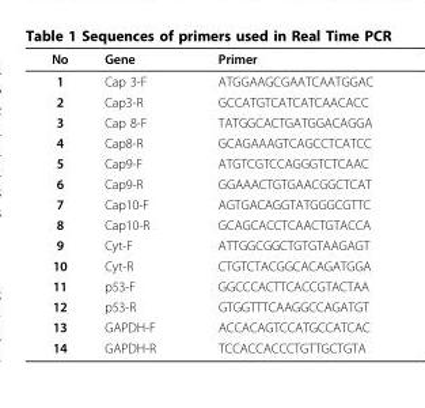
<table><thead><tr><td>No</td><td>Gene</td><td>Primer</td></tr></thead><tbody><tr><td>1</td><td>Cap 3-F</td><td>ATGGAAGCGAATCAATGGAC</td></tr><tr><td>2</td><td>Cap3-R</td><td>GCCATGTCATCATCAACACC</td></tr><tr><td>3</td><td>Cap 8-F</td><td>TATGGCACTGATGGACAGGA</td></tr><tr><td>4</td><td>Cap8-R</td><td>GCAGAAAGTCAGCCTCATCC</td></tr><tr><td>5</td><td>Cap9-F</td><td>ATGTCGTCCAGGGTCTCAAC</td></tr><tr><td>6</td><td>Cap9-R</td><td>GGAAACTGTGAACGGCTCAT</td></tr><tr><td>7</td><td>Cap10-F</td><td>AGTGACAGGTATGGGCGTTC</td></tr><tr><td>8</td><td>Cap10-R</td><td>GCAGCACCTCAACTGTACCA</td></tr><tr><td>9</td><td>Cyt-F</td><td>ATTGGCGGCTGTGTAAGAGT</td></tr><tr><td>10</td><td>Cyt-R</td><td>CTGTCTACGGCACAGATGGA</td></tr><tr><td>11</td><td>p53-F</td><td>GGCCCACTTCACCGTACTAA</td></tr><tr><td>12</td><td>p53-R</td><td>GTGGTTTCAAGGCCAGATGT</td></tr><tr><td>13</td><td>GAPDH-F</td><td>ACCACAGTCCATGCCATCAC</td></tr><tr><td>14</td><td>GAPDH-R</td><td>TCCACCACCCTGTTGCTGTA</td></tr></tbody></table>